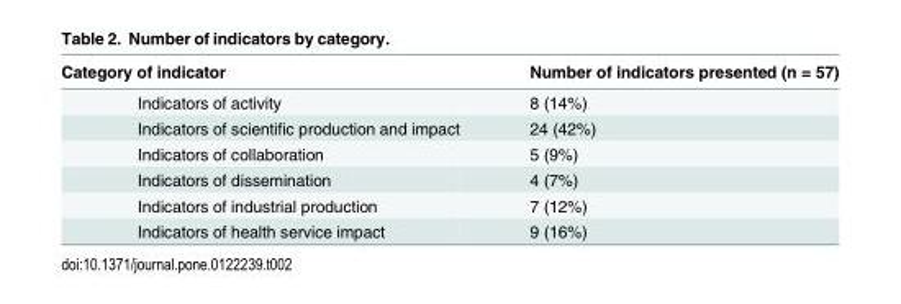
<table><thead><tr><td>Category of indicator</td><td>Number of indicators presented (n = 57)</td></tr></thead><tbody><tr><td>Indicators of activity</td><td>8 (14%)</td></tr><tr><td>Indicators of scientific production and impact</td><td>24 (42%)</td></tr><tr><td>Indicators of collaboration</td><td>5 (9%)</td></tr><tr><td>Indicators of dissemination</td><td>4 (7%)</td></tr><tr><td>Indicators of industrial production</td><td>7 (12%)</td></tr><tr><td>Indicators of health service impact</td><td>9 (16%)</td></tr></tbody></table>